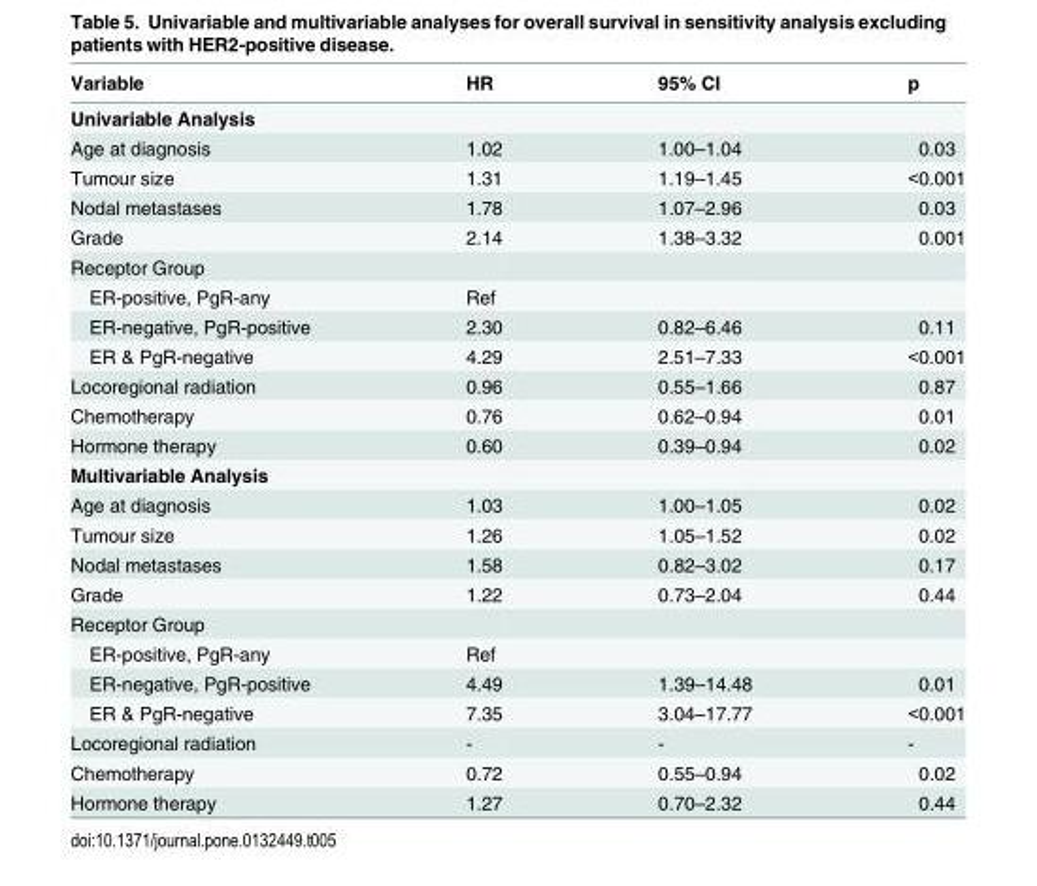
<table><thead><tr><td>Variable</td><td>HR</td><td>95% CI</td><td>p</td></tr></thead><tbody><tr><td colspan="4">Univariable Analysis</td></tr><tr><td>Age at diagnosis</td><td>1.02</td><td>1.00–1.04</td><td>0.03</td></tr><tr><td>Tumour size</td><td>1.31</td><td>1.19–1.45</td><td>&lt;0.001</td></tr><tr><td>Nodal metastases</td><td>1.78</td><td>1.07–2.96</td><td>0.03</td></tr><tr><td>Grade</td><td>2.14</td><td>1.38–3.32</td><td>0.001</td></tr><tr><td colspan="4">Receptor Group</td></tr><tr><td>ER-positive, PgR-any</td><td>Ref</td><td></td><td></td></tr><tr><td>ER-negative, PgR-positive</td><td>2.30</td><td>0.82–6.46</td><td>0.11</td></tr><tr><td>ER &amp; PgR-negative</td><td>4.29</td><td>2.51–7.33</td><td>&lt;0.001</td></tr><tr><td>Locoregional radiation</td><td>0.96</td><td>0.55–1.66</td><td>0.87</td></tr><tr><td>Chemotherapy</td><td>0.76</td><td>0.62–0.94</td><td>0.01</td></tr><tr><td>Hormone therapy</td><td>0.60</td><td>0.39–0.94</td><td>0.02</td></tr><tr><td colspan="4">Multivariable Analysis</td></tr><tr><td>Age at diagnosis</td><td>1.03</td><td>1.00–1.05</td><td>0.02</td></tr><tr><td>Tumour size</td><td>1.26</td><td>1.05–1.52</td><td>0.02</td></tr><tr><td>Nodal metastases</td><td>1.58</td><td>0.82–3.02</td><td>0.17</td></tr><tr><td>Grade</td><td>1.22</td><td>0.73–2.04</td><td>0.44</td></tr><tr><td colspan="4">Receptor Group</td></tr><tr><td>ER-positive, PgR-any</td><td>Ref</td><td></td><td></td></tr><tr><td>ER-negative, PgR-positive</td><td>4.49</td><td>1.39–14.48</td><td>0.01</td></tr><tr><td>ER &amp; PgR-negative</td><td>7.35</td><td>3.04–17.77</td><td>&lt;0.001</td></tr><tr><td>Locoregional radiation</td><td>-</td><td>-</td><td>-</td></tr><tr><td>Chemotherapy</td><td>0.72</td><td>0.55–0.94</td><td>0.02</td></tr><tr><td>Hormone therapy</td><td>1.27</td><td>0.70–2.32</td><td>0.44</td></tr></tbody></table>